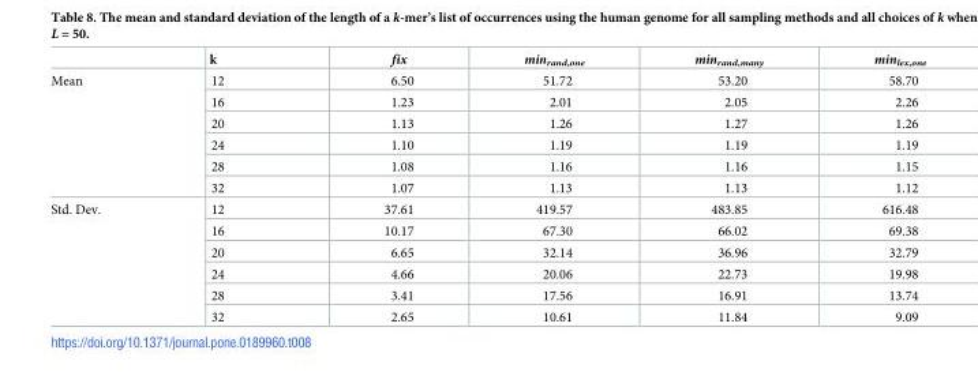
<table><thead><tr><td></td><td>k</td><td>fix</td><td>min<sub>rand,one</sub></td><td>min<sub>rand,many</sub></td><td>min<sub>lex,one</sub></td></tr></thead><tbody><tr><td rowspan="6">Mean</td><td>12</td><td>6.50</td><td>51.72</td><td>53.20</td><td>58.70</td></tr><tr><td>16</td><td>1.23</td><td>2.01</td><td>2.05</td><td>2.26</td></tr><tr><td>20</td><td>1.13</td><td>1.26</td><td>1.27</td><td>1.26</td></tr><tr><td>24</td><td>1.10</td><td>1.19</td><td>1.19</td><td>1.19</td></tr><tr><td>28</td><td>1.08</td><td>1.16</td><td>1.16</td><td>1.15</td></tr><tr><td>32</td><td>1.07</td><td>1.13</td><td>1.13</td><td>1.12</td></tr><tr><td rowspan="6">Std. Dev.</td><td>12</td><td>37.61</td><td>419.57</td><td>483.85</td><td>616.48</td></tr><tr><td>16</td><td>10.17</td><td>67.30</td><td>66.02</td><td>69.38</td></tr><tr><td>20</td><td>6.65</td><td>32.14</td><td>36.96</td><td>32.79</td></tr><tr><td>24</td><td>4.66</td><td>20.06</td><td>22.73</td><td>19.98</td></tr><tr><td>28</td><td>3.41</td><td>17.56</td><td>16.91</td><td>13.74</td></tr><tr><td>32</td><td>2.65</td><td>10.61</td><td>11.84</td><td>9.09</td></tr></tbody></table>